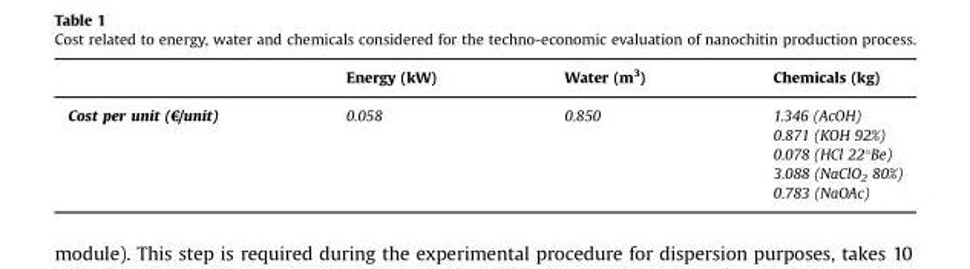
<table><thead><tr><td></td><td>Energy (kW)</td><td>Water (m<sup>3</sup>)</td><td>Chemicals (kg)</td></tr></thead><tbody><tr><td rowspan="5">Cost per unit (€/unit)</td><td rowspan="5">0.058</td><td rowspan="5">0.850</td><td>1.346 (AcOH)</td></tr><tr><td>0.871 (KOH 92%)</td></tr><tr><td>0.078 (HCl 22°Be)</td></tr><tr><td>3.088 (NaClO<sub>2</sub> 80%)</td></tr><tr><td>0.783 (NaOAc)</td></tr></tbody></table>